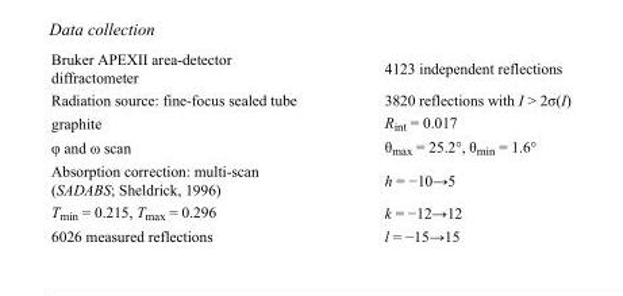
<table><tbody><tr><td>Bruker APEXII area-detector diffractometer</td><td>4123 independent reflections</td></tr><tr><td>Radiation source: fine-focus sealed tube</td><td>3820 reflections with I &gt; 2σ(I)</td></tr><tr><td>graphite</td><td>R<sub>int</sub> = 0.017</td></tr><tr><td>φ and ω scan</td><td>θ<sub>max</sub> = 25.2°, θ<sub>min</sub> = 1.6°</td></tr><tr><td>Absorption correction: multi-scan (SADABS; Sheldrick, 1996)</td><td>h = −10→5</td></tr><tr><td>T<sub>min</sub> = 0.215, T<sub>max</sub> = 0.296</td><td>k = −12→12</td></tr><tr><td>6026 measured reflections</td><td>l = −15→15</td></tr></tbody></table>